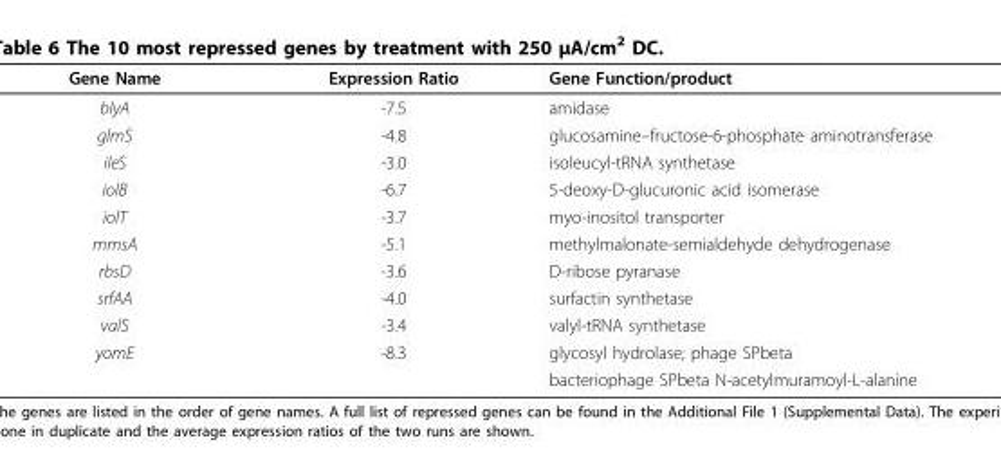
<table><thead><tr><td>Gene Name</td><td>Expression Ratio</td><td>Gene Function/product</td></tr></thead><tbody><tr><td>blyA</td><td>-7.5</td><td>amidase</td></tr><tr><td>glmS</td><td>-4.8</td><td>glucosamine–fructose-6-phosphate aminotransferase</td></tr><tr><td>ileS</td><td>-3.0</td><td>isoleucyl-tRNA synthetase</td></tr><tr><td>iolB</td><td>-6.7</td><td>5-deoxy-D-glucuronic acid isomerase</td></tr><tr><td>iolT</td><td>-3.7</td><td>myo-inositol transporter</td></tr><tr><td>mmsA</td><td>-5.1</td><td>methylmalonate-semialdehyde dehydrogenase</td></tr><tr><td>rbsD</td><td>-3.6</td><td>D-ribose pyranase</td></tr><tr><td>srfAA</td><td>-4.0</td><td>surfactin synthetase</td></tr><tr><td>valS</td><td>-3.4</td><td>valyl-tRNA synthetase</td></tr><tr><td rowspan="2">yomE</td><td>-8.3</td><td>glycosyl hydrolase; phage SPbeta</td></tr><tr><td></td><td>bacteriophage SPbeta N-acetylmuramoyl-L-alanine</td></tr></tbody></table>